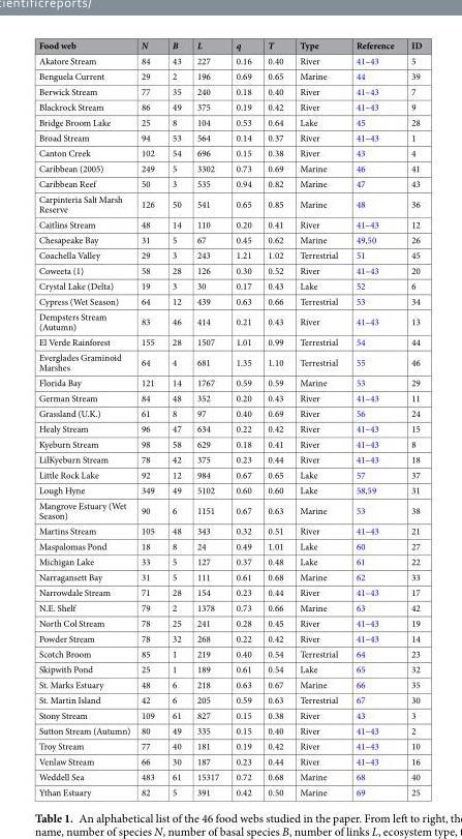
<table><thead><tr><td>Food web</td><td>N</td><td>B</td><td>L</td><td>q</td><td>T</td><td>Type</td><td>Reference</td><td>ID</td></tr></thead><tbody><tr><td>Akatore Stream</td><td>84</td><td>43</td><td>227</td><td>0.16</td><td>0.40</td><td>River</td><td>41–43</td><td>5</td></tr><tr><td>Benguela Current</td><td>29</td><td>2</td><td>196</td><td>0.69</td><td>0.65</td><td>Marine</td><td>44</td><td>39</td></tr><tr><td>Berwick Stream</td><td>77</td><td>35</td><td>240</td><td>0.18</td><td>0.40</td><td>River</td><td>41–43</td><td>7</td></tr><tr><td>Blackrock Stream</td><td>86</td><td>49</td><td>375</td><td>0.19</td><td>0.42</td><td>River</td><td>41–43</td><td>9</td></tr><tr><td>Bridge Broom Lake</td><td>25</td><td>8</td><td>104</td><td>0.53</td><td>0.64</td><td>Lake</td><td>45</td><td>28</td></tr><tr><td>Broad Stream</td><td>94</td><td>53</td><td>564</td><td>0.14</td><td>0.37</td><td>River</td><td>41–43</td><td>1</td></tr><tr><td>Canton Creek</td><td>102</td><td>54</td><td>696</td><td>0.15</td><td>0.38</td><td>River</td><td>43</td><td>4</td></tr><tr><td>Caribbean (2005)</td><td>249</td><td>5</td><td>3302</td><td>0.73</td><td>0.69</td><td>Marine</td><td>46</td><td>41</td></tr><tr><td>Caribbean Reef</td><td>50</td><td>3</td><td>535</td><td>0.94</td><td>0.82</td><td>Marine</td><td>47</td><td>43</td></tr><tr><td>Carpinteria Salt Marsh Reserve</td><td>126</td><td>50</td><td>541</td><td>0.65</td><td>0.85</td><td>Marine</td><td>48</td><td>36</td></tr><tr><td>Caitlins Stream</td><td>48</td><td>14</td><td>110</td><td>0.20</td><td>0.41</td><td>River</td><td>41–43</td><td>12</td></tr><tr><td>Chesapeake Bay</td><td>31</td><td>5</td><td>67</td><td>0.45</td><td>0.62</td><td>Marine</td><td>49,50</td><td>26</td></tr><tr><td>Coachella Valley</td><td>29</td><td>3</td><td>243</td><td>1.21</td><td>1.02</td><td>Terrestrial</td><td>51</td><td>45</td></tr><tr><td>Coweeta (1)</td><td>58</td><td>28</td><td>126</td><td>0.30</td><td>0.52</td><td>River</td><td>41–43</td><td>20</td></tr><tr><td>Crystal Lake (Delta)</td><td>19</td><td>3</td><td>30</td><td>0.17</td><td>0.43</td><td>Lake</td><td>52</td><td>6</td></tr><tr><td>Cypress (Wet Season)</td><td>64</td><td>12</td><td>439</td><td>0.63</td><td>0.66</td><td>Terrestrial</td><td>53</td><td>34</td></tr><tr><td>Dempsters Stream (Autumn)</td><td>83</td><td>46</td><td>414</td><td>0.21</td><td>0.43</td><td>River</td><td>41–43</td><td>13</td></tr><tr><td>El Verde Rainforest</td><td>155</td><td>28</td><td>1507</td><td>1.01</td><td>0.99</td><td>Terrestrial</td><td>54</td><td>44</td></tr><tr><td>Everglades Graminoid Marshes</td><td>64</td><td>4</td><td>681</td><td>1.35</td><td>1.10</td><td>Terrestrial</td><td>55</td><td>46</td></tr><tr><td>Florida Bay</td><td>121</td><td>14</td><td>1767</td><td>0.59</td><td>0.59</td><td>Marine</td><td>53</td><td>29</td></tr><tr><td>German Stream</td><td>84</td><td>48</td><td>352</td><td>0.20</td><td>0.43</td><td>River</td><td>41–43</td><td>11</td></tr><tr><td>Grassland (U.K.)</td><td>61</td><td>8</td><td>97</td><td>0.40</td><td>0.69</td><td>River</td><td>56</td><td>24</td></tr><tr><td>Healy Stream</td><td>96</td><td>47</td><td>634</td><td>0.22</td><td>0.42</td><td>River</td><td>41–43</td><td>15</td></tr><tr><td>Kyeburn Stream</td><td>98</td><td>58</td><td>629</td><td>0.18</td><td>0.41</td><td>River</td><td>41–43</td><td>8</td></tr><tr><td>LilKyeburn Stream</td><td>78</td><td>42</td><td>375</td><td>0.23</td><td>0.44</td><td>River</td><td>41–43</td><td>18</td></tr><tr><td>Little Rock Lake</td><td>92</td><td>12</td><td>984</td><td>0.67</td><td>0.65</td><td>Lake</td><td>57</td><td>37</td></tr><tr><td>Lough Hyne</td><td>349</td><td>49</td><td>5102</td><td>0.60</td><td>0.60</td><td>Lake</td><td>58,59</td><td>31</td></tr><tr><td>Mangrove Estuary (Wet Season)</td><td>90</td><td>6</td><td>1151</td><td>0.67</td><td>0.63</td><td>Marine</td><td>53</td><td>38</td></tr><tr><td>Martins Stream</td><td>105</td><td>48</td><td>343</td><td>0.32</td><td>0.51</td><td>River</td><td>41–43</td><td>21</td></tr><tr><td>Maspalomas Pond</td><td>18</td><td>8</td><td>24</td><td>0.49</td><td>1.01</td><td>Lake</td><td>60</td><td>27</td></tr><tr><td>Michigan Lake</td><td>33</td><td>5</td><td>127</td><td>0.37</td><td>0.48</td><td>Lake</td><td>61</td><td>22</td></tr><tr><td>Narragansett Bay</td><td>31</td><td>5</td><td>111</td><td>0.61</td><td>0.68</td><td>Marine</td><td>62</td><td>33</td></tr><tr><td>Narrowdale Stream</td><td>71</td><td>28</td><td>154</td><td>0.23</td><td>0.44</td><td>River</td><td>41–43</td><td>17</td></tr><tr><td>N.E. Shelf</td><td>79</td><td>2</td><td>1378</td><td>0.73</td><td>0.66</td><td>Marine</td><td>63</td><td>42</td></tr><tr><td>North Col Stream</td><td>78</td><td>25</td><td>241</td><td>0.28</td><td>0.45</td><td>River</td><td>41–43</td><td>19</td></tr><tr><td>Powder Stream</td><td>78</td><td>32</td><td>268</td><td>0.22</td><td>0.42</td><td>River</td><td>41–43</td><td>14</td></tr><tr><td>Scotch Broom</td><td>85</td><td>1</td><td>219</td><td>0.40</td><td>0.54</td><td>Terrestrial</td><td>64</td><td>23</td></tr><tr><td>Skipwith Pond</td><td>25</td><td>1</td><td>189</td><td>0.61</td><td>0.54</td><td>Lake</td><td>65</td><td>32</td></tr><tr><td>St. Marks Estuary</td><td>48</td><td>6</td><td>218</td><td>0.63</td><td>0.67</td><td>Marine</td><td>66</td><td>35</td></tr><tr><td>St. Martin Island</td><td>42</td><td>6</td><td>205</td><td>0.59</td><td>0.63</td><td>Terrestrial</td><td>67</td><td>30</td></tr><tr><td>Stony Stream</td><td>109</td><td>61</td><td>827</td><td>0.15</td><td>0.38</td><td>River</td><td>43</td><td>3</td></tr><tr><td>Sutton Stream (Autumn)</td><td>80</td><td>49</td><td>335</td><td>0.15</td><td>0.40</td><td>River</td><td>41–43</td><td>2</td></tr><tr><td>Troy Stream</td><td>77</td><td>40</td><td>181</td><td>0.19</td><td>0.42</td><td>River</td><td>41–43</td><td>10</td></tr><tr><td>Venlaw Stream</td><td>66</td><td>30</td><td>187</td><td>0.23</td><td>0.44</td><td>River</td><td>41–43</td><td>16</td></tr><tr><td>Weddell Sea</td><td>483</td><td>61</td><td>15317</td><td>0.72</td><td>0.68</td><td>Marine</td><td>68</td><td>40</td></tr><tr><td>Ythan Estuary</td><td>82</td><td>5</td><td>391</td><td>0.42</td><td>0.50</td><td>Marine</td><td>69</td><td>25</td></tr></tbody></table>